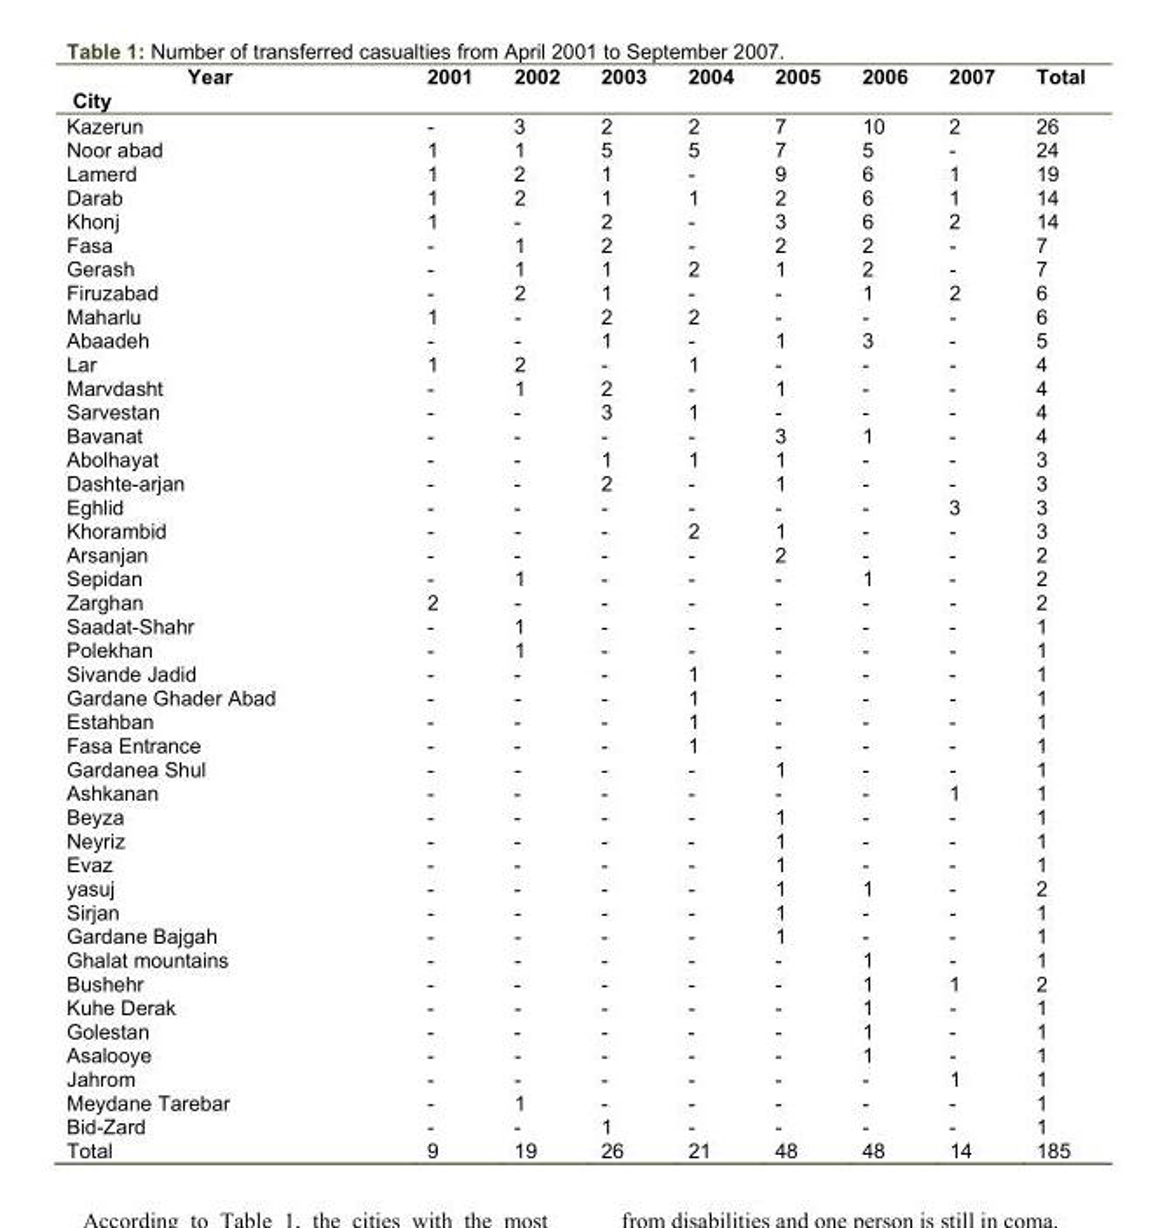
<table><thead><tr><td>Year City</td><td>2001</td><td>2002</td><td>2003</td><td>2004</td><td>2005</td><td>2006</td><td>2007</td><td>Total</td></tr></thead><tbody><tr><td>Kazerun</td><td>-</td><td>3</td><td>2</td><td>2</td><td>7</td><td>10</td><td>2</td><td>26</td></tr><tr><td>Noor abad</td><td>1</td><td>1</td><td>5</td><td>5</td><td>7</td><td>5</td><td>-</td><td>24</td></tr><tr><td>Lamerd</td><td>1</td><td>2</td><td>1</td><td>-</td><td>9</td><td>6</td><td>1</td><td>19</td></tr><tr><td>Darab</td><td>1</td><td>2</td><td>1</td><td>1</td><td>2</td><td>6</td><td>1</td><td>14</td></tr><tr><td>Khonj</td><td>1</td><td>-</td><td>2</td><td>-</td><td>3</td><td>6</td><td>2</td><td>14</td></tr><tr><td>Fasa</td><td>-</td><td>1</td><td>2</td><td>-</td><td>2</td><td>2</td><td>-</td><td>7</td></tr><tr><td>Gerash</td><td>-</td><td>1</td><td>1</td><td>2</td><td>1</td><td>2</td><td>-</td><td>7</td></tr><tr><td>Firuzabad</td><td>-</td><td>2</td><td>1</td><td>-</td><td>-</td><td>1</td><td>2</td><td>6</td></tr><tr><td>Maharlu</td><td>1</td><td>-</td><td>2</td><td>2</td><td>-</td><td>-</td><td>-</td><td>6</td></tr><tr><td>Abaadeh</td><td>-</td><td>-</td><td>1</td><td>-</td><td>1</td><td>3</td><td>-</td><td>5</td></tr><tr><td>Lar</td><td>1</td><td>2</td><td>-</td><td>1</td><td>-</td><td>-</td><td>-</td><td>4</td></tr><tr><td>Marvdasht</td><td>-</td><td>1</td><td>2</td><td>-</td><td>1</td><td>-</td><td>-</td><td>4</td></tr><tr><td>Sarvestan</td><td>-</td><td>-</td><td>3</td><td>1</td><td>-</td><td>-</td><td>-</td><td>4</td></tr><tr><td>Bavanat</td><td>-</td><td>-</td><td>-</td><td>-</td><td>3</td><td>1</td><td>-</td><td>4</td></tr><tr><td>Abolhayat</td><td>-</td><td>-</td><td>1</td><td>1</td><td>1</td><td>-</td><td>-</td><td>3</td></tr><tr><td>Dashte-arjan</td><td>-</td><td>-</td><td>2</td><td>-</td><td>1</td><td>-</td><td>-</td><td>3</td></tr><tr><td>Eghlid</td><td>-</td><td>-</td><td>-</td><td>-</td><td>-</td><td>-</td><td>3</td><td>3</td></tr><tr><td>Khorambid</td><td>-</td><td>-</td><td>-</td><td>2</td><td>1</td><td>-</td><td>-</td><td>3</td></tr><tr><td>Arsanjan</td><td>-</td><td>-</td><td>-</td><td>-</td><td>2</td><td>-</td><td>-</td><td>2</td></tr><tr><td>Sepidan</td><td>-</td><td>1</td><td>-</td><td>-</td><td>-</td><td>1</td><td>-</td><td>2</td></tr><tr><td>Zarghan</td><td>2</td><td>-</td><td>-</td><td>-</td><td>-</td><td>-</td><td>-</td><td>2</td></tr><tr><td>Saadat-Shahr</td><td>-</td><td>1</td><td>-</td><td>-</td><td>-</td><td>-</td><td>-</td><td>1</td></tr><tr><td>Polekhan</td><td>-</td><td>1</td><td>-</td><td>-</td><td>-</td><td>-</td><td>-</td><td>1</td></tr><tr><td>Sivande Jadid</td><td>-</td><td>-</td><td>-</td><td>1</td><td>-</td><td>-</td><td>-</td><td>1</td></tr><tr><td>Gardane Ghader Abad</td><td>-</td><td>-</td><td>-</td><td>1</td><td>-</td><td>-</td><td>-</td><td>1</td></tr><tr><td>Estahban</td><td>-</td><td>-</td><td>-</td><td>1</td><td>-</td><td>-</td><td>-</td><td>1</td></tr><tr><td>Fasa Entrance</td><td>-</td><td>-</td><td>-</td><td>1</td><td>-</td><td>-</td><td>-</td><td>1</td></tr><tr><td>Gardanea Shul</td><td>-</td><td>-</td><td>-</td><td>-</td><td>1</td><td>-</td><td>-</td><td>1</td></tr><tr><td>Ashkanan</td><td>-</td><td>-</td><td>-</td><td>-</td><td>-</td><td>-</td><td>1</td><td>1</td></tr><tr><td>Beyza</td><td>-</td><td>-</td><td>-</td><td>-</td><td>1</td><td>-</td><td>-</td><td>1</td></tr><tr><td>Neyriz</td><td>-</td><td>-</td><td>-</td><td>-</td><td>1</td><td>-</td><td>-</td><td>1</td></tr><tr><td>Evaz</td><td>-</td><td>-</td><td>-</td><td>-</td><td>1</td><td>-</td><td>-</td><td>1</td></tr><tr><td>yasuj</td><td>-</td><td>-</td><td>-</td><td>-</td><td>1</td><td>1</td><td>-</td><td>2</td></tr><tr><td>Sirjan</td><td>-</td><td>-</td><td>-</td><td>-</td><td>1</td><td>-</td><td>-</td><td>1</td></tr><tr><td>Gardane Bajgah</td><td>-</td><td>-</td><td>-</td><td>-</td><td>1</td><td>-</td><td>-</td><td>1</td></tr><tr><td>Ghalat mountains</td><td>-</td><td>-</td><td>-</td><td>-</td><td>-</td><td>1</td><td>-</td><td>1</td></tr><tr><td>Bushehr</td><td>-</td><td>-</td><td>-</td><td>-</td><td>-</td><td>1</td><td>1</td><td>2</td></tr><tr><td>Kuhe Derak</td><td>-</td><td>-</td><td>-</td><td>-</td><td>-</td><td>1</td><td>-</td><td>1</td></tr><tr><td>Golestan</td><td>-</td><td>-</td><td>-</td><td>-</td><td>-</td><td>1</td><td>-</td><td>1</td></tr><tr><td>Asalooye</td><td>-</td><td>-</td><td>-</td><td>-</td><td>-</td><td>1</td><td>-</td><td>1</td></tr><tr><td>Jahrom</td><td>-</td><td>-</td><td>-</td><td>-</td><td>-</td><td>-</td><td>1</td><td>1</td></tr><tr><td>Meydane Tarebar</td><td>-</td><td>1</td><td>-</td><td>-</td><td>-</td><td>-</td><td>-</td><td>1</td></tr><tr><td>Bid-Zard</td><td>-</td><td>-</td><td>1</td><td>-</td><td>-</td><td>-</td><td>-</td><td>1</td></tr><tr><td>Total</td><td>9</td><td>19</td><td>26</td><td>21</td><td>48</td><td>48</td><td>14</td><td>185</td></tr></tbody></table>